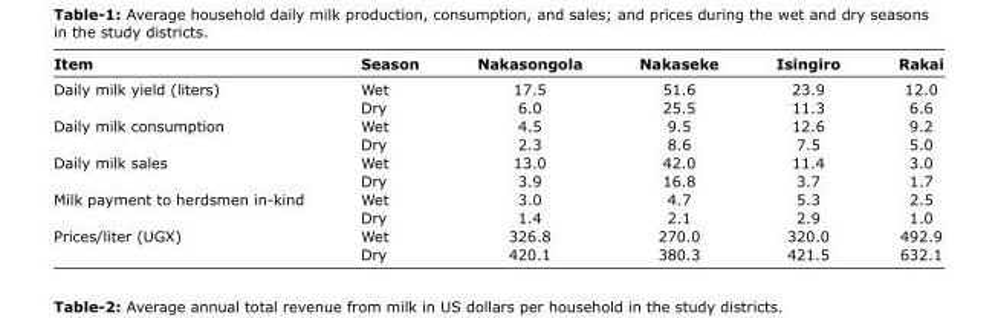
<table><thead><tr><td>Item</td><td>Season</td><td>Nakasongola</td><td>Nakaseke</td><td>Isingiro</td><td>Rakai</td></tr></thead><tbody><tr><td rowspan="2">Daily milk yield (liters)</td><td>Wet</td><td>17.5</td><td>51.6</td><td>23.9</td><td>12.0</td></tr><tr><td>Dry</td><td>6.0</td><td>25.5</td><td>11.3</td><td>6.6</td></tr><tr><td rowspan="2">Daily milk consumption</td><td>Wet</td><td>4.5</td><td>9.5</td><td>12.6</td><td>9.2</td></tr><tr><td>Dry</td><td>2.3</td><td>8.6</td><td>7.5</td><td>5.0</td></tr><tr><td rowspan="2">Daily milk sales</td><td>Wet</td><td>13.0</td><td>42.0</td><td>11.4</td><td>3.0</td></tr><tr><td>Dry</td><td>3.9</td><td>16.8</td><td>3.7</td><td>1.7</td></tr><tr><td rowspan="2">Milk payment to herdsmen in-kind</td><td>Wet</td><td>3.0</td><td>4.7</td><td>5.3</td><td>2.5</td></tr><tr><td>Dry</td><td>1.4</td><td>2.1</td><td>2.9</td><td>1.0</td></tr><tr><td rowspan="2">Prices/liter (UGX)</td><td>Wet</td><td>326.8</td><td>270.0</td><td>320.0</td><td>492.9</td></tr><tr><td>Dry</td><td>420.1</td><td>380.3</td><td>421.5</td><td>632.1</td></tr></tbody></table>